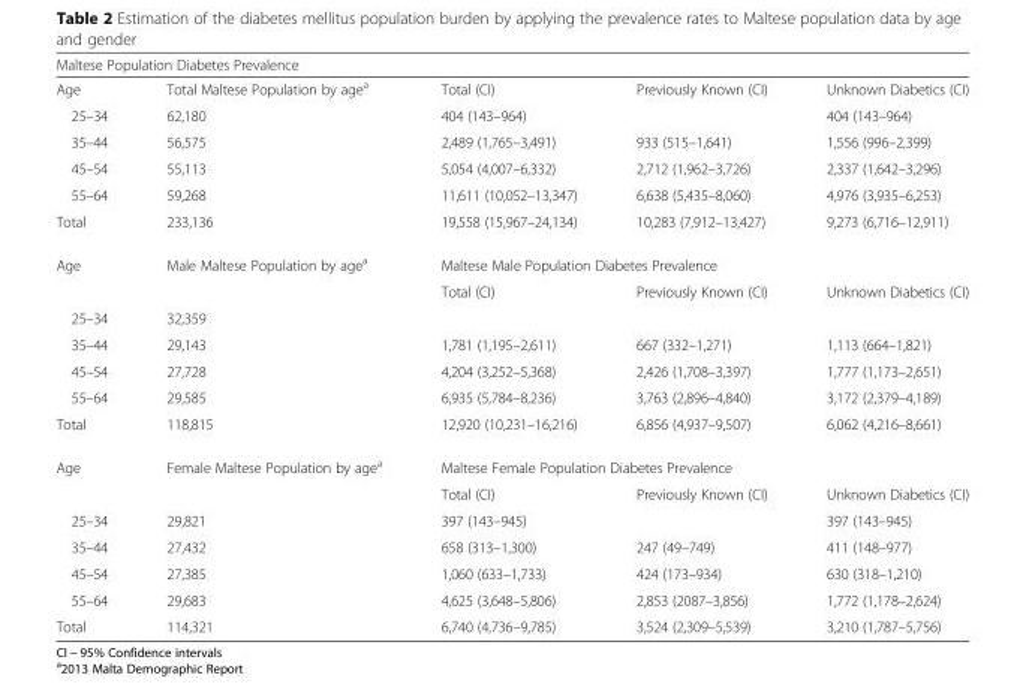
<table><thead><tr><td colspan="5">Maltese Population Diabetes Prevalence</td></tr><tr><td>Age</td><td>Total Maltese Population by age<sup>a</sup></td><td>Total (CI)</td><td>Previously Known (CI)</td><td>Unknown Diabetics (CI)</td></tr></thead><tbody><tr><td>25–34</td><td>62,180</td><td>404 (143–964)</td><td></td><td>404 (143–964)</td></tr><tr><td>35–44</td><td>56,575</td><td>2,489 (1,765–3,491)</td><td>933 (515–1,641)</td><td>1,556 (996–2,399)</td></tr><tr><td>45–54</td><td>55,113</td><td>5,054 (4,007–6,332)</td><td>2,712 (1,962–3,726)</td><td>2,337 (1,642–3,296)</td></tr><tr><td>55–64</td><td>59,268</td><td>11,611 (10,052–13,347)</td><td>6,638 (5,435–8,060)</td><td>4,976 (3,935–6,253)</td></tr><tr><td>Total</td><td>233,136</td><td>19,558 (15,967–24,134)</td><td>10,283 (7,912–13,427)</td><td>9,273 (6,716–12,911)</td></tr><tr><td rowspan="2">Age</td><td rowspan="2">Male Maltese Population by age<sup>a</sup></td><td colspan="3">Maltese Male Population Diabetes Prevalence</td></tr><tr><td>Total (CI)</td><td>Previously Known (CI)</td><td>Unknown Diabetics (CI)</td></tr><tr><td>25–34</td><td>32,359</td><td></td><td></td><td></td></tr><tr><td>35–44</td><td>29,143</td><td>1,781 (1,195–2,611)</td><td>667 (332–1,271)</td><td>1,113 (664–1,821)</td></tr><tr><td>45–54</td><td>27,728</td><td>4,204 (3,252–5,368)</td><td>2,426 (1,708–3,397)</td><td>1,777 (1,173–2,651)</td></tr><tr><td>55–64</td><td>29,585</td><td>6,935 (5,784–8,236)</td><td>3,763 (2,896–4,840)</td><td>3,172 (2,379–4,189)</td></tr><tr><td>Total</td><td>118,815</td><td>12,920 (10,231–16,216)</td><td>6,856 (4,937–9,507)</td><td>6,062 (4,216–8,661)</td></tr><tr><td rowspan="2">Age</td><td rowspan="2">Female Maltese Population by age<sup>a</sup></td><td colspan="3">Maltese Female Population Diabetes Prevalence</td></tr><tr><td>Total (CI)</td><td>Previously Known (CI)</td><td>Unknown Diabetics (CI)</td></tr><tr><td>25–34</td><td>29,821</td><td>397 (143–945)</td><td></td><td>397 (143–945)</td></tr><tr><td>35–44</td><td>27,432</td><td>658 (313–1,300)</td><td>247 (49–749)</td><td>411 (148–977)</td></tr><tr><td>45–54</td><td>27,385</td><td>1,060 (633–1,733)</td><td>424 (173–934)</td><td>630 (318–1,210)</td></tr><tr><td>55–64</td><td>29,683</td><td>4,625 (3,648–5,806)</td><td>2,853 (2087–3,856)</td><td>1,772 (1,178–2,624)</td></tr><tr><td>Total</td><td>114,321</td><td>6,740 (4,736–9,785)</td><td>3,524 (2,309–5,539)</td><td>3,210 (1,787–5,756)</td></tr></tbody></table>